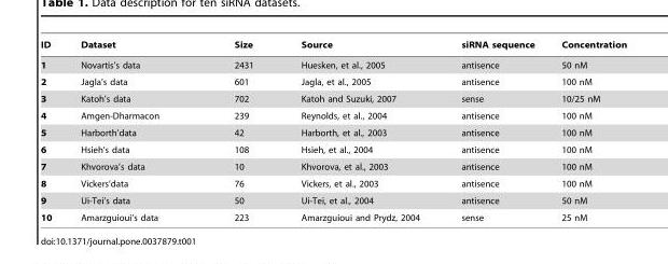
<table><thead><tr><td>ID</td><td>Dataset</td><td>Size</td><td>Source</td><td>siRNA sequence</td><td>Concentration</td></tr></thead><tbody><tr><td>1</td><td>Novartis’s data</td><td>2431</td><td>Huesken, et al., 2005</td><td>antisence</td><td>50 nM</td></tr><tr><td>2</td><td>Jagla’s data</td><td>601</td><td>Jagla, et al., 2005</td><td>antisence</td><td>100 nM</td></tr><tr><td>3</td><td>Katoh’s data</td><td>702</td><td>Katoh and Suzuki, 2007</td><td>sense</td><td>10/25 nM</td></tr><tr><td>4</td><td>Amgen-Dharmacon</td><td>239</td><td>Reynolds, et al., 2004</td><td>antisence</td><td>100 nM</td></tr><tr><td>5</td><td>Harborth’data</td><td>42</td><td>Harborth, et al., 2003</td><td>antisence</td><td>100 nM</td></tr><tr><td>6</td><td>Hsieh’s data</td><td>108</td><td>Hsieh, et al., 2004</td><td>antisence</td><td>100 nM</td></tr><tr><td>7</td><td>Khvorova’s data</td><td>10</td><td>Khvorova, et al., 2003</td><td>antisence</td><td>100 nM</td></tr><tr><td>8</td><td>Vickers’data</td><td>76</td><td>Vickers, et al., 2003</td><td>antisence</td><td>100 nM</td></tr><tr><td>9</td><td>Ui-Tei’s data</td><td>50</td><td>Ui-Tei, et al., 2004</td><td>antisence</td><td>50 nM</td></tr><tr><td>10</td><td>Amarzguioui’s data</td><td>223</td><td>Amarzguioui and Prydz, 2004</td><td>sense</td><td>25 nM</td></tr></tbody></table>